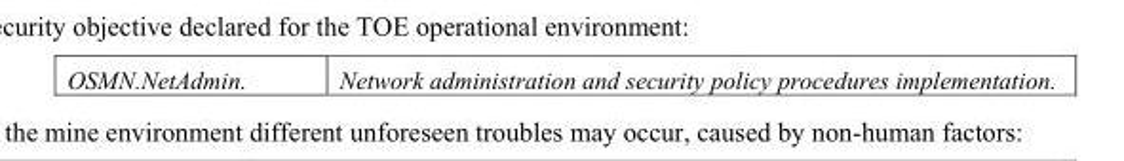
<table><tbody><tr><td>OSMN.NetAdmin.</td><td>Network administration and security policy procedures implementation.</td></tr></tbody></table>